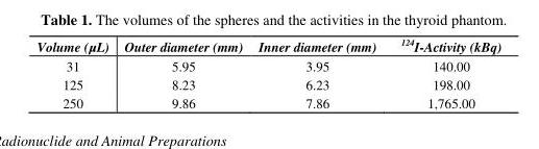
<table><thead><tr><td>Volume (µL)</td><td>Outer diameter (mm)</td><td>Inner diameter (mm)</td><td><sup>124</sup>I-Activity (kBq)</td></tr></thead><tbody><tr><td>31</td><td>5.95</td><td>3.95</td><td>140.00</td></tr><tr><td>125</td><td>8.23</td><td>6.23</td><td>198.00</td></tr><tr><td>250</td><td>9.86</td><td>7.86</td><td>1,765.00</td></tr></tbody></table>